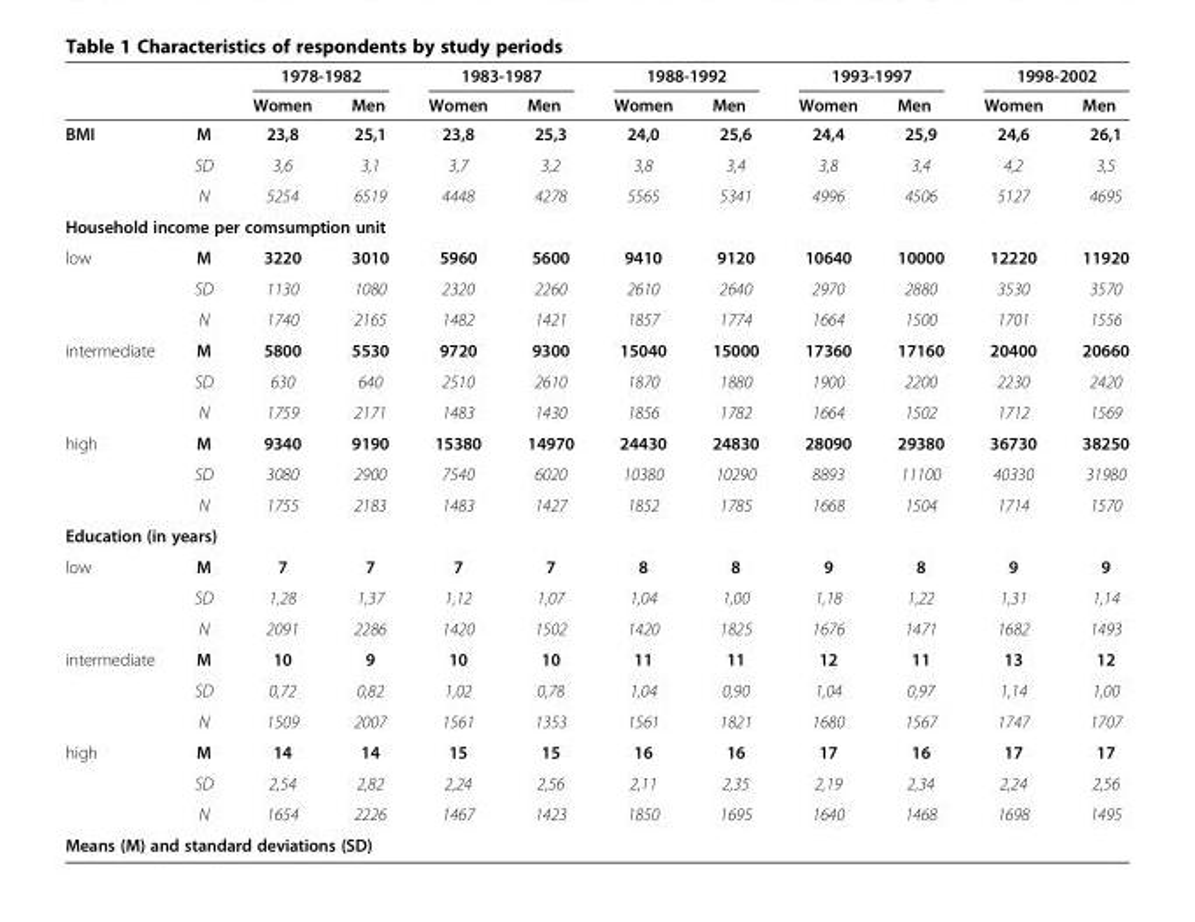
<table><thead><tr><td rowspan="2"></td><td rowspan="2"></td><td colspan="2">1978-1982</td><td colspan="2">1983-1987</td><td colspan="2">1988-1992</td><td colspan="2">1993-1997</td><td colspan="2">1998-2002</td></tr><tr><td>Women</td><td>Men</td><td>Women</td><td>Men</td><td>Women</td><td>Men</td><td>Women</td><td>Men</td><td>Women</td><td>Men</td></tr></thead><tbody><tr><td rowspan="3">BMI</td><td>M</td><td>23,8</td><td>25,1</td><td>23,8</td><td>25,3</td><td>24,0</td><td>25,6</td><td>24,4</td><td>25,9</td><td>24,6</td><td>26,1</td></tr><tr><td>SD</td><td>3,6</td><td>3,1</td><td>3,7</td><td>3,2</td><td>3,8</td><td>3,4</td><td>3,8</td><td>3,4</td><td>4,2</td><td>3,5</td></tr><tr><td>N</td><td>5254</td><td>6519</td><td>4448</td><td>4278</td><td>5565</td><td>5341</td><td>4996</td><td>4506</td><td>5127</td><td>4695</td></tr><tr><td colspan="12">Household income per comsumption unit</td></tr><tr><td rowspan="3">low</td><td>M</td><td>3220</td><td>3010</td><td>5960</td><td>5600</td><td>9410</td><td>9120</td><td>10640</td><td>10000</td><td>12220</td><td>11920</td></tr><tr><td>SD</td><td>1130</td><td>1080</td><td>2320</td><td>2260</td><td>2610</td><td>2640</td><td>2970</td><td>2880</td><td>3530</td><td>3570</td></tr><tr><td>N</td><td>1740</td><td>2165</td><td>1482</td><td>1421</td><td>1857</td><td>1774</td><td>1664</td><td>1500</td><td>1701</td><td>1556</td></tr><tr><td rowspan="3">intermediate</td><td>M</td><td>5800</td><td>5530</td><td>9720</td><td>9300</td><td>15040</td><td>15000</td><td>17360</td><td>17160</td><td>20400</td><td>20660</td></tr><tr><td>SD</td><td>630</td><td>640</td><td>2510</td><td>2610</td><td>1870</td><td>1880</td><td>1900</td><td>2200</td><td>2230</td><td>2420</td></tr><tr><td>N</td><td>1759</td><td>2171</td><td>1483</td><td>1430</td><td>1856</td><td>1782</td><td>1664</td><td>1502</td><td>1712</td><td>1569</td></tr><tr><td rowspan="3">high</td><td>M</td><td>9340</td><td>9190</td><td>15380</td><td>14970</td><td>24430</td><td>24830</td><td>28090</td><td>29380</td><td>36730</td><td>38250</td></tr><tr><td>SD</td><td>3080</td><td>2900</td><td>7540</td><td>6020</td><td>10380</td><td>10290</td><td>8893</td><td>11100</td><td>40330</td><td>31980</td></tr><tr><td>N</td><td>1755</td><td>2183</td><td>1483</td><td>1427</td><td>1852</td><td>1785</td><td>1668</td><td>1504</td><td>1714</td><td>1570</td></tr><tr><td colspan="12">Education (in years)</td></tr><tr><td rowspan="3">low</td><td>M</td><td>7</td><td>7</td><td>7</td><td>7</td><td>8</td><td>8</td><td>9</td><td>8</td><td>9</td><td>9</td></tr><tr><td>SD</td><td>1,28</td><td>1,37</td><td>1,12</td><td>1,07</td><td>1,04</td><td>1,00</td><td>1,18</td><td>1,22</td><td>1,31</td><td>1,14</td></tr><tr><td>N</td><td>2091</td><td>2286</td><td>1420</td><td>1502</td><td>1420</td><td>1825</td><td>1676</td><td>1471</td><td>1682</td><td>1493</td></tr><tr><td rowspan="3">intermediate</td><td>M</td><td>10</td><td>9</td><td>10</td><td>10</td><td>11</td><td>11</td><td>12</td><td>11</td><td>13</td><td>12</td></tr><tr><td>SD</td><td>0,72</td><td>0,82</td><td>1,02</td><td>0,78</td><td>1,04</td><td>0,90</td><td>1,04</td><td>0,97</td><td>1,14</td><td>1,00</td></tr><tr><td>N</td><td>1509</td><td>2007</td><td>1561</td><td>1353</td><td>1561</td><td>1821</td><td>1680</td><td>1567</td><td>1747</td><td>1707</td></tr><tr><td rowspan="3">high</td><td>M</td><td>14</td><td>14</td><td>15</td><td>15</td><td>16</td><td>16</td><td>17</td><td>16</td><td>17</td><td>17</td></tr><tr><td>SD</td><td>2,54</td><td>2,82</td><td>2,24</td><td>2,56</td><td>2,11</td><td>2,35</td><td>2,19</td><td>2,34</td><td>2,24</td><td>2,56</td></tr><tr><td>N</td><td>1654</td><td>2226</td><td>1467</td><td>1423</td><td>1850</td><td>1695</td><td>1640</td><td>1468</td><td>1698</td><td>1495</td></tr><tr><td colspan="12">Means (M) and standard deviations (SD)</td></tr></tbody></table>